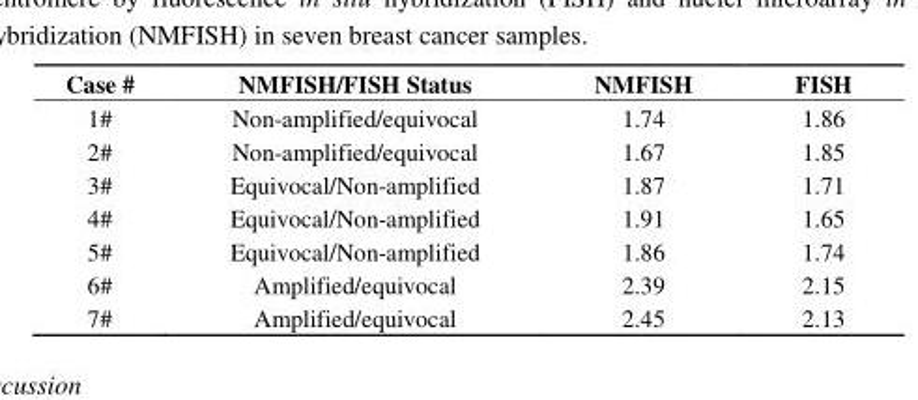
<table><thead><tr><td>Case #</td><td>NMFISH/FISH Status</td><td>NMFISH</td><td>FISH</td></tr></thead><tbody><tr><td>1#</td><td>Non-amplified/equivocal</td><td>1.74</td><td>1.86</td></tr><tr><td>2#</td><td>Non-amplified/equivocal</td><td>1.67</td><td>1.85</td></tr><tr><td>3#</td><td>Equivocal/Non-amplified</td><td>1.87</td><td>1.71</td></tr><tr><td>4#</td><td>Equivocal/Non-amplified</td><td>1.91</td><td>1.65</td></tr><tr><td>5#</td><td>Equivocal/Non-amplified</td><td>1.86</td><td>1.74</td></tr><tr><td>6#</td><td>Amplified/equivocal</td><td>2.39</td><td>2.15</td></tr><tr><td>7#</td><td>Amplified/equivocal</td><td>2.45</td><td>2.13</td></tr></tbody></table>